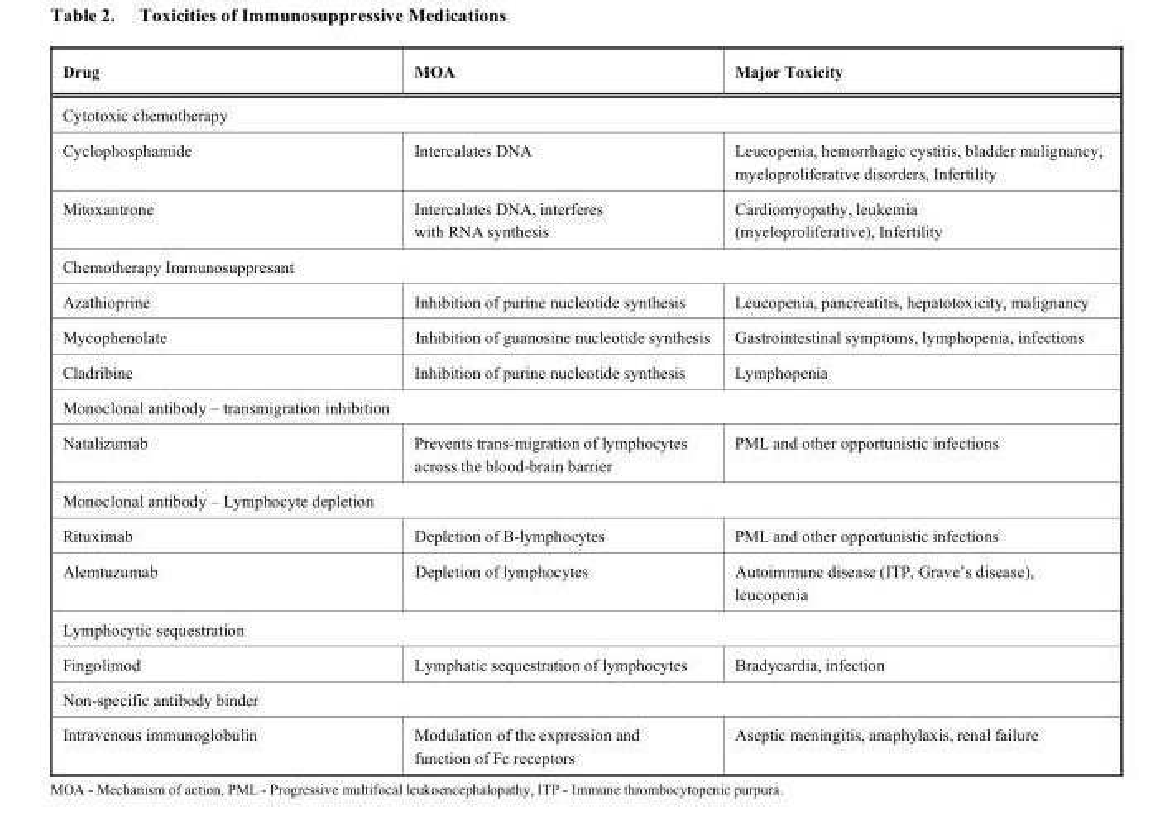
<table><thead><tr><td>Drug</td><td>MOA</td><td>Major Toxicity</td></tr></thead><tbody><tr><td colspan="3">Cytotoxic chemotherapy</td></tr><tr><td>Cyclophosphamide</td><td>Intercalates DNA</td><td>Leucopenia, hemorrhagic cystitis, bladder malignancy, myeloproliferative disorders, Infertility</td></tr><tr><td>Mitoxantrone</td><td>Intercalates DNA, interferes with RNA synthesis</td><td>Cardiomyopathy, leukemia (myeloproliferative), Infertility</td></tr><tr><td colspan="3">Chemotherapy Immunosuppresant</td></tr><tr><td>Azathioprine</td><td>Inhibition of purine nucleotide synthesis</td><td>Leucopenia, pancreatitis, hepatotoxicity, malignancy</td></tr><tr><td>Mycophenolate</td><td>Inhibition of guanosine nucleotide synthesis</td><td>Gastrointestinal symptoms, lymphopenia, infections</td></tr><tr><td>Cladribine</td><td>Inhibition of purine nucleotide synthesis</td><td>Lymphopenia</td></tr><tr><td colspan="3">Monoclonal antibody – transmigration inhibition</td></tr><tr><td>Natalizumab</td><td>Prevents trans-migration of lymphocytes across the blood-brain barrier</td><td>PML and other opportunistic infections</td></tr><tr><td colspan="3">Monoclonal antibody – Lymphocyte depletion</td></tr><tr><td>Rituximab</td><td>Depletion of B-lymphocytes</td><td>PML and other opportunistic infections</td></tr><tr><td>Alemtuzumab</td><td>Depletion of lymphocytes</td><td>Autoimmune disease (ITP, Grave’s disease), leucopenia</td></tr><tr><td colspan="3">Lymphocytic sequestration</td></tr><tr><td>Fingolimod</td><td>Lymphatic sequestration of lymphocytes</td><td>Bradycardia, infection</td></tr><tr><td colspan="3">Non-specific antibody binder</td></tr><tr><td>Intravenous immunoglobulin</td><td>Modulation of the expression and function of Fc receptors</td><td>Aseptic meningitis, anaphylaxis, renal failure</td></tr></tbody></table>